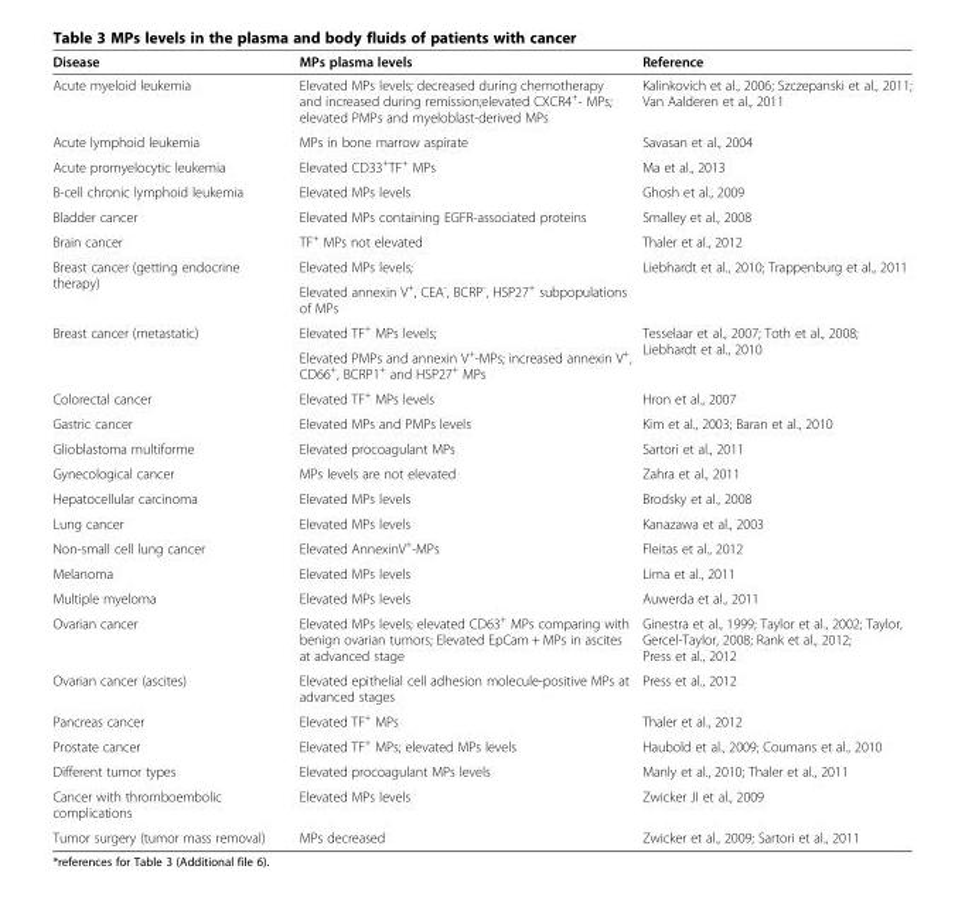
<table><thead><tr><td>Disease</td><td>MPs plasma levels</td><td>Reference</td></tr></thead><tbody><tr><td>Acute myeloid leukemia</td><td>Elevated MPs levels; decreased during chemotherapy and increased during remission;elevated CXCR4<sup>+</sup>- MPs; elevated PMPs and myeloblast-derived MPs</td><td>Kalinkovich et al., 2006; Szczepanski et al., 2011; Van Aalderen et al., 2011</td></tr><tr><td>Acute lymphoid leukemia</td><td>MPs in bone marrow aspirate</td><td>Savasan et al., 2004</td></tr><tr><td>Acute promyelocytic leukemia</td><td>Elevated CD33<sup>+</sup>TF<sup>+</sup> MPs</td><td>Ma et al., 2013</td></tr><tr><td>B-cell chronic lymphoid leukemia</td><td>Elevated MPs levels</td><td>Ghosh et al., 2009</td></tr><tr><td>Bladder cancer</td><td>Elevated MPs containing EGFR-associated proteins</td><td>Smalley et al., 2008</td></tr><tr><td>Brain cancer</td><td>TF<sup>+</sup> MPs not elevated</td><td>Thaler et al., 2012</td></tr><tr><td rowspan="2">Breast cancer (getting endocrine therapy)</td><td>Elevated MPs levels;</td><td rowspan="2">Liebhardt et al., 2010; Trappenburg et al., 2011</td></tr><tr><td>Elevated annexin V<sup>+</sup>, CEA<sup>-</sup>, BCRP<sup>-</sup>, HSP27<sup>+</sup> subpopulations of MPs</td></tr><tr><td rowspan="2">Breast cancer (metastatic)</td><td>Elevated TF<sup>+</sup> MPs levels;</td><td rowspan="2">Tesselaar et al., 2007; Toth et al., 2008; Liebhardt et al., 2010</td></tr><tr><td>Elevated PMPs and annexin V<sup>+</sup>-MPs; increased annexin V<sup>+</sup>, CD66<sup>+</sup>, BCRP1<sup>+</sup> and HSP27<sup>+</sup> MPs</td></tr><tr><td>Colorectal cancer</td><td>Elevated TF<sup>+</sup> MPs levels</td><td>Hron et al., 2007</td></tr><tr><td>Gastric cancer</td><td>Elevated MPs and PMPs levels</td><td>Kim et al., 2003; Baran et al., 2010</td></tr><tr><td>Glioblastoma multiforme</td><td>Elevated procoagulant MPs</td><td>Sartori et al., 2011</td></tr><tr><td>Gynecological cancer</td><td>MPs levels are not elevated</td><td>Zahra et al., 2011</td></tr><tr><td>Hepatocellular carcinoma</td><td>Elevated MPs levels</td><td>Brodsky et al., 2008</td></tr><tr><td>Lung cancer</td><td>Elevated MPs levels</td><td>Kanazawa et al., 2003</td></tr><tr><td>Non-small cell lung cancer</td><td>Elevated AnnexinV<sup>+</sup>-MPs</td><td>Fleitas et al., 2012</td></tr><tr><td>Melanoma</td><td>Elevated MPs levels</td><td>Lima et al., 2011</td></tr><tr><td>Multiple myeloma</td><td>Elevated MPs levels</td><td>Auwerda et al., 2011</td></tr><tr><td>Ovarian cancer</td><td>Elevated MPs levels; elevated CD63<sup>+</sup> MPs comparing with benign ovarian tumors; Elevated EpCam + MPs in ascites at advanced stage</td><td>Ginestra et al., 1999; Taylor et al., 2002; Taylor, Gercel-Taylor, 2008; Rank et al., 2012; Press et al., 2012</td></tr><tr><td>Ovarian cancer (ascites)</td><td>Elevated epithelial cell adhesion molecule-positive MPs at advanced stages</td><td>Press et al., 2012</td></tr><tr><td>Pancreas cancer</td><td>Elevated TF<sup>+</sup> MPs</td><td>Thaler et al., 2012</td></tr><tr><td>Prostate cancer</td><td>Elevated TF<sup>+</sup> MPs; elevated MPs levels</td><td>Haubold et al., 2009; Coumans et al., 2010</td></tr><tr><td>Different tumor types</td><td>Elevated procoagulant MPs levels</td><td>Manly et al., 2010; Thaler et al., 2011</td></tr><tr><td>Cancer with thromboembolic complications</td><td>Elevated MPs levels</td><td>Zwicker JI et al., 2009</td></tr><tr><td>Tumor surgery (tumor mass removal)</td><td>MPs decreased</td><td>Zwicker et al., 2009; Sartori et al., 2011</td></tr></tbody></table>